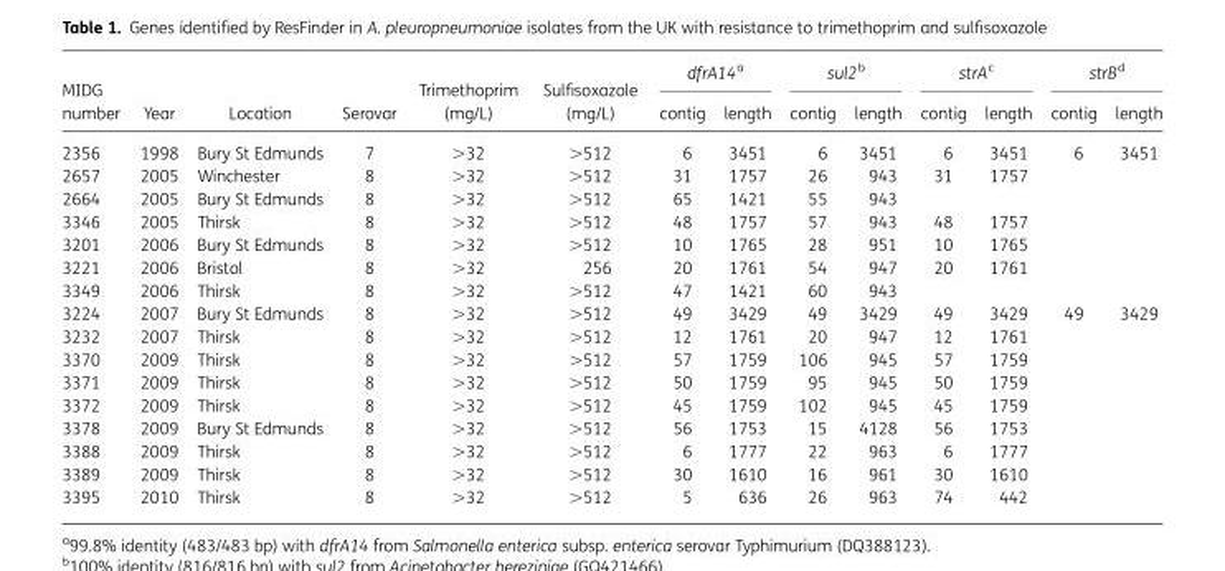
<table><thead><tr><td rowspan="2">MIDG number</td><td rowspan="2">Year</td><td rowspan="2">Location</td><td rowspan="2">Serovar</td><td rowspan="2">Trimethoprim (mg/L)</td><td rowspan="2">Sulfisoxazole (mg/L)</td><td colspan="2">dfrA14<sup>a</sup></td><td colspan="2">sul2<sup>b</sup></td><td colspan="2">strA<sup>c</sup></td><td colspan="2">strB<sup>d</sup></td></tr><tr><td>contig</td><td>length</td><td>contig</td><td>length</td><td>contig</td><td>length</td><td>contig</td><td>length</td></tr></thead><tbody><tr><td>2356</td><td>1998</td><td>Bury St Edmunds</td><td>7</td><td>&gt;32</td><td>&gt;512</td><td>6</td><td>3451</td><td>6</td><td>3451</td><td>6</td><td>3451</td><td>6</td><td>3451</td></tr><tr><td>2657</td><td>2005</td><td>Winchester</td><td>8</td><td>&gt;32</td><td>&gt;512</td><td>31</td><td>1757</td><td>26</td><td>943</td><td>31</td><td>1757</td><td></td><td></td></tr><tr><td>2664</td><td>2005</td><td>Bury St Edmunds</td><td>8</td><td>&gt;32</td><td>&gt;512</td><td>65</td><td>1421</td><td>55</td><td>943</td><td></td><td></td><td></td><td></td></tr><tr><td>3346</td><td>2005</td><td>Thirsk</td><td>8</td><td>&gt;32</td><td>&gt;512</td><td>48</td><td>1757</td><td>57</td><td>943</td><td>48</td><td>1757</td><td></td><td></td></tr><tr><td>3201</td><td>2006</td><td>Bury St Edmunds</td><td>8</td><td>&gt;32</td><td>&gt;512</td><td>10</td><td>1765</td><td>28</td><td>951</td><td>10</td><td>1765</td><td></td><td></td></tr><tr><td>3221</td><td>2006</td><td>Bristol</td><td>8</td><td>&gt;32</td><td>256</td><td>20</td><td>1761</td><td>54</td><td>947</td><td>20</td><td>1761</td><td></td><td></td></tr><tr><td>3349</td><td>2006</td><td>Thirsk</td><td>8</td><td>&gt;32</td><td>&gt;512</td><td>47</td><td>1421</td><td>60</td><td>943</td><td></td><td></td><td></td><td></td></tr><tr><td>3224</td><td>2007</td><td>Bury St Edmunds</td><td>8</td><td>&gt;32</td><td>&gt;512</td><td>49</td><td>3429</td><td>49</td><td>3429</td><td>49</td><td>3429</td><td>49</td><td>3429</td></tr><tr><td>3232</td><td>2007</td><td>Thirsk</td><td>8</td><td>&gt;32</td><td>&gt;512</td><td>12</td><td>1761</td><td>20</td><td>947</td><td>12</td><td>1761</td><td></td><td></td></tr><tr><td>3370</td><td>2009</td><td>Thirsk</td><td>8</td><td>&gt;32</td><td>&gt;512</td><td>57</td><td>1759</td><td>106</td><td>945</td><td>57</td><td>1759</td><td></td><td></td></tr><tr><td>3371</td><td>2009</td><td>Thirsk</td><td>8</td><td>&gt;32</td><td>&gt;512</td><td>50</td><td>1759</td><td>95</td><td>945</td><td>50</td><td>1759</td><td></td><td></td></tr><tr><td>3372</td><td>2009</td><td>Thirsk</td><td>8</td><td>&gt;32</td><td>&gt;512</td><td>45</td><td>1759</td><td>102</td><td>945</td><td>45</td><td>1759</td><td></td><td></td></tr><tr><td>3378</td><td>2009</td><td>Bury St Edmunds</td><td>8</td><td>&gt;32</td><td>&gt;512</td><td>56</td><td>1753</td><td>15</td><td>4128</td><td>56</td><td>1753</td><td></td><td></td></tr><tr><td>3388</td><td>2009</td><td>Thirsk</td><td>8</td><td>&gt;32</td><td>&gt;512</td><td>6</td><td>1777</td><td>22</td><td>963</td><td>6</td><td>1777</td><td></td><td></td></tr><tr><td>3389</td><td>2009</td><td>Thirsk</td><td>8</td><td>&gt;32</td><td>&gt;512</td><td>30</td><td>1610</td><td>16</td><td>961</td><td>30</td><td>1610</td><td></td><td></td></tr><tr><td>3395</td><td>2010</td><td>Thirsk</td><td>8</td><td>&gt;32</td><td>&gt;512</td><td>5</td><td>636</td><td>26</td><td>963</td><td>74</td><td>442</td><td></td><td></td></tr></tbody></table>